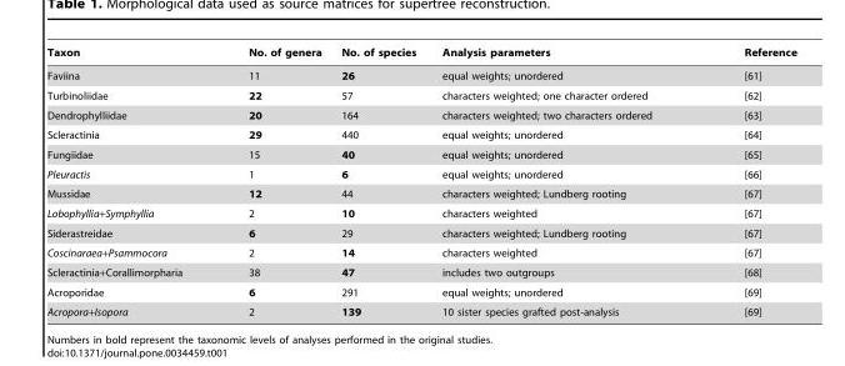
<table><thead><tr><td>Taxon</td><td>No. of genera</td><td>No. of species</td><td>Analysis parameters</td><td>Reference</td></tr></thead><tbody><tr><td>Faviina</td><td>11</td><td>26</td><td>equal weights; unordered</td><td>[61]</td></tr><tr><td>Turbinoliidae</td><td>22</td><td>57</td><td>characters weighted; one character ordered</td><td>[62]</td></tr><tr><td>Dendrophylliidae</td><td>20</td><td>164</td><td>characters weighted; two characters ordered</td><td>[63]</td></tr><tr><td>Scleractinia</td><td>29</td><td>440</td><td>equal weights; unordered</td><td>[64]</td></tr><tr><td>Fungiidae</td><td>15</td><td>40</td><td>equal weights; unordered</td><td>[65]</td></tr><tr><td>Pleuractis</td><td>1</td><td>6</td><td>equal weights; unordered</td><td>[66]</td></tr><tr><td>Mussidae</td><td>12</td><td>44</td><td>characters weighted; Lundberg rooting</td><td>[67]</td></tr><tr><td>Lobophyllia+Symphyllia</td><td>2</td><td>10</td><td>characters weighted</td><td>[67]</td></tr><tr><td>Siderastreidae</td><td>6</td><td>29</td><td>characters weighted; Lundberg rooting</td><td>[67]</td></tr><tr><td>Coscinaraea+Psammocora</td><td>2</td><td>14</td><td>characters weighted</td><td>[67]</td></tr><tr><td>Scleractinia+Corallimorpharia</td><td>38</td><td>47</td><td>includes two outgroups</td><td>[68]</td></tr><tr><td>Acroporidae</td><td>6</td><td>291</td><td>equal weights; unordered</td><td>[69]</td></tr><tr><td>Acropora+Isopora</td><td>2</td><td>139</td><td>10 sister species grafted post-analysis</td><td>[69]</td></tr></tbody></table>